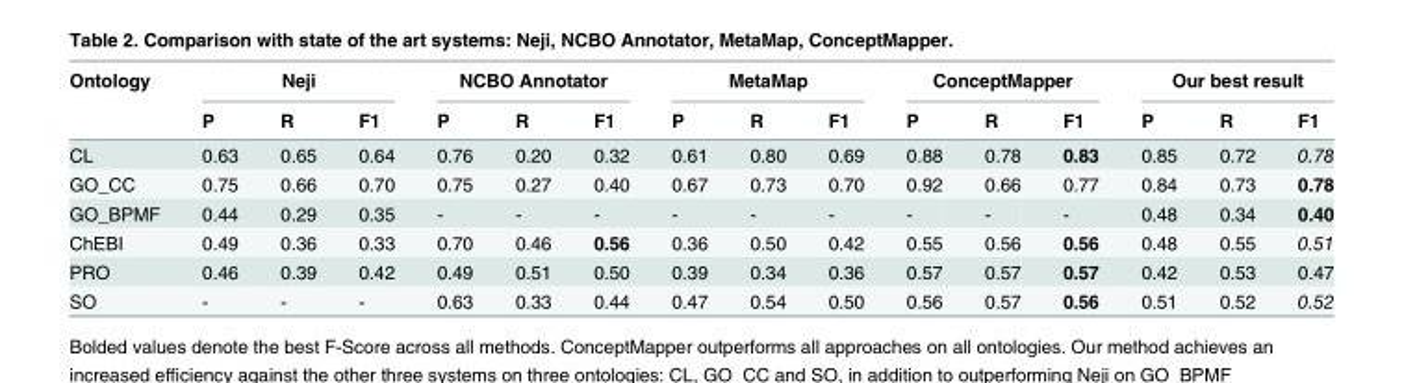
<table><thead><tr><td rowspan="2">Ontology</td><td colspan="3">Neji</td><td colspan="3">NCBO Annotator</td><td colspan="3">MetaMap</td><td colspan="3">ConceptMapper</td><td colspan="3">Our best result</td></tr><tr><td>P</td><td>R</td><td>F1</td><td>P</td><td>R</td><td>F1</td><td>P</td><td>R</td><td>F1</td><td>P</td><td>R</td><td>F1</td><td>P</td><td>R</td><td>F1</td></tr></thead><tbody><tr><td>CL</td><td>0.63</td><td>0.65</td><td>0.64</td><td>0.76</td><td>0.20</td><td>0.32</td><td>0.61</td><td>0.80</td><td>0.69</td><td>0.88</td><td>0.78</td><td>0.83</td><td>0.85</td><td>0.72</td><td>0.78</td></tr><tr><td>GO_CC</td><td>0.75</td><td>0.66</td><td>0.70</td><td>0.75</td><td>0.27</td><td>0.40</td><td>0.67</td><td>0.73</td><td>0.70</td><td>0.92</td><td>0.66</td><td>0.77</td><td>0.84</td><td>0.73</td><td>0.78</td></tr><tr><td>GO_BPMF</td><td>0.44</td><td>0.29</td><td>0.35</td><td>-</td><td>-</td><td>-</td><td>-</td><td>-</td><td>-</td><td>-</td><td>-</td><td>-</td><td>0.48</td><td>0.34</td><td>0.40</td></tr><tr><td>ChEBI</td><td>0.49</td><td>0.36</td><td>0.33</td><td>0.70</td><td>0.46</td><td>0.56</td><td>0.36</td><td>0.50</td><td>0.42</td><td>0.55</td><td>0.56</td><td>0.56</td><td>0.48</td><td>0.55</td><td>0.51</td></tr><tr><td>PRO</td><td>0.46</td><td>0.39</td><td>0.42</td><td>0.49</td><td>0.51</td><td>0.50</td><td>0.39</td><td>0.34</td><td>0.36</td><td>0.57</td><td>0.57</td><td>0.57</td><td>0.42</td><td>0.53</td><td>0.47</td></tr><tr><td>SO</td><td>-</td><td>-</td><td>-</td><td>0.63</td><td>0.33</td><td>0.44</td><td>0.47</td><td>0.54</td><td>0.50</td><td>0.56</td><td>0.57</td><td>0.56</td><td>0.51</td><td>0.52</td><td>0.52</td></tr></tbody></table>